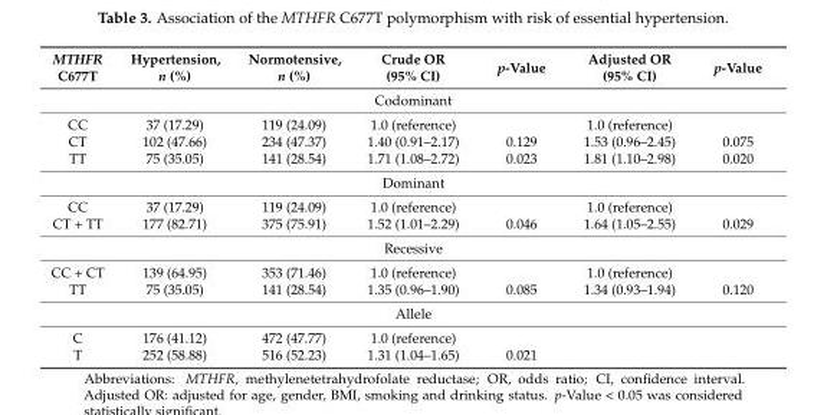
<table><thead><tr><td>MTHFR C677T</td><td>Hypertension, n (%)</td><td>Normotensive, n (%)</td><td>Crude OR (95% CI)</td><td>p-Value</td><td>Adjusted OR (95% CI)</td><td>p-Value</td></tr></thead><tbody><tr><td colspan="7">Codominant</td></tr><tr><td>CC</td><td>37 (17.29)</td><td>119 (24.09)</td><td>1.0 (reference)</td><td></td><td>1.0 (reference)</td><td></td></tr><tr><td>CT</td><td>102 (47.66)</td><td>234 (47.37)</td><td>1.40 (0.91–2.17)</td><td>0.129</td><td>1.53 (0.96–2.45)</td><td>0.075</td></tr><tr><td>TT</td><td>75 (35.05)</td><td>141 (28.54)</td><td>1.71 (1.08–2.72)</td><td>0.023</td><td>1.81 (1.10–2.98)</td><td>0.020</td></tr><tr><td colspan="7">Dominant</td></tr><tr><td>CC</td><td>37 (17.29)</td><td>119 (24.09)</td><td>1.0 (reference)</td><td></td><td>1.0 (reference)</td><td></td></tr><tr><td>CT + TT</td><td>177 (82.71)</td><td>375 (75.91)</td><td>1.52 (1.01–2.29)</td><td>0.046</td><td>1.64 (1.05–2.55)</td><td>0.029</td></tr><tr><td colspan="7">Recessive</td></tr><tr><td>CC + CT</td><td>139 (64.95)</td><td>353 (71.46)</td><td>1.0 (reference)</td><td></td><td>1.0 (reference)</td><td></td></tr><tr><td>TT</td><td>75 (35.05)</td><td>141 (28.54)</td><td>1.35 (0.96–1.90)</td><td>0.085</td><td>1.34 (0.93–1.94)</td><td>0.120</td></tr><tr><td colspan="7">Allele</td></tr><tr><td>C</td><td>176 (41.12)</td><td>472 (47.77)</td><td>1.0 (reference)</td><td></td><td></td><td></td></tr><tr><td>T</td><td>252 (58.88)</td><td>516 (52.23)</td><td>1.31 (1.04–1.65)</td><td>0.021</td><td></td><td></td></tr></tbody></table>